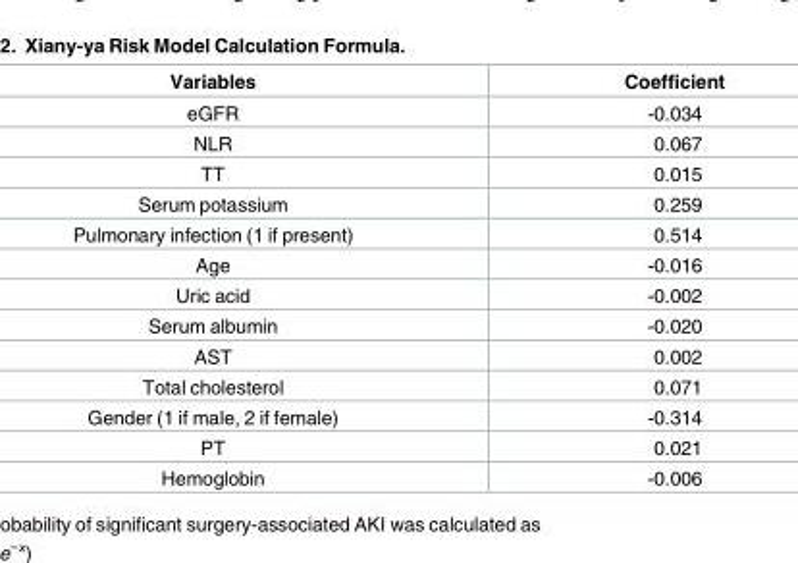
<table><thead><tr><td>Variables</td><td>Coefficient</td></tr></thead><tbody><tr><td>eGFR</td><td>-0.034</td></tr><tr><td>NLR</td><td>0.067</td></tr><tr><td>TT</td><td>0.015</td></tr><tr><td>Serum potassium</td><td>0.259</td></tr><tr><td>Pulmonary infection (1 if present)</td><td>0.514</td></tr><tr><td>Age</td><td>-0.016</td></tr><tr><td>Uric acid</td><td>-0.002</td></tr><tr><td>Serum albumin</td><td>-0.020</td></tr><tr><td>AST</td><td>0.002</td></tr><tr><td>Total cholesterol</td><td>0.071</td></tr><tr><td>Gender (1 if male, 2 if female)</td><td>-0.314</td></tr><tr><td>PT</td><td>0.021</td></tr><tr><td>Hemoglobin</td><td>-0.006</td></tr></tbody></table>